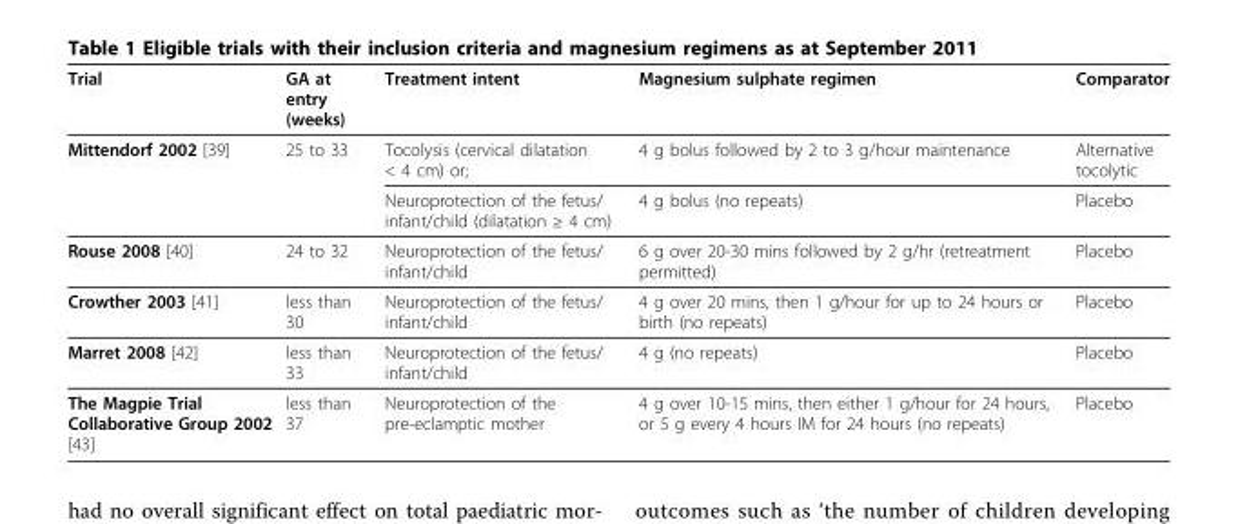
<table><thead><tr><td>Trial</td><td>GA at entry (weeks)</td><td>Treatment intent</td><td>Magnesium sulphate regimen</td><td>Comparator</td></tr></thead><tbody><tr><td rowspan="2">Mittendorf 2002 [39]</td><td>25 to 33</td><td>Tocolysis (cervical dilatation &lt; 4 cm) or;</td><td>4 g bolus followed by 2 to 3 g/hour maintenance</td><td>Alternative tocolytic</td></tr><tr><td></td><td>Neuroprotection of the fetus/ infant/child (dilatation ≥ 4 cm)</td><td>4 g bolus (no repeats)</td><td>Placebo</td></tr><tr><td>Rouse 2008 [40]</td><td>24 to 32</td><td>Neuroprotection of the fetus/ infant/child</td><td>6 g over 20-30 mins followed by 2 g/hr (retreatment permitted)</td><td>Placebo</td></tr><tr><td>Crowther 2003 [41]</td><td>less than 30</td><td>Neuroprotection of the fetus/ infant/child</td><td>4 g over 20 mins, then 1 g/hour for up to 24 hours or birth (no repeats)</td><td>Placebo</td></tr><tr><td>Marret 2008 [42]</td><td>less than 33</td><td>Neuroprotection of the fetus/ infant/child</td><td>4 g (no repeats)</td><td>Placebo</td></tr><tr><td>The Magpie Trial Collaborative Group 2002 [43]</td><td>less than 37</td><td>Neuroprotection of the pre-eclamptic mother</td><td>4 g over 10-15 mins, then either 1 g/hour for 24 hours, or 5 g every 4 hours IM for 24 hours (no repeats)</td><td>Placebo</td></tr></tbody></table>